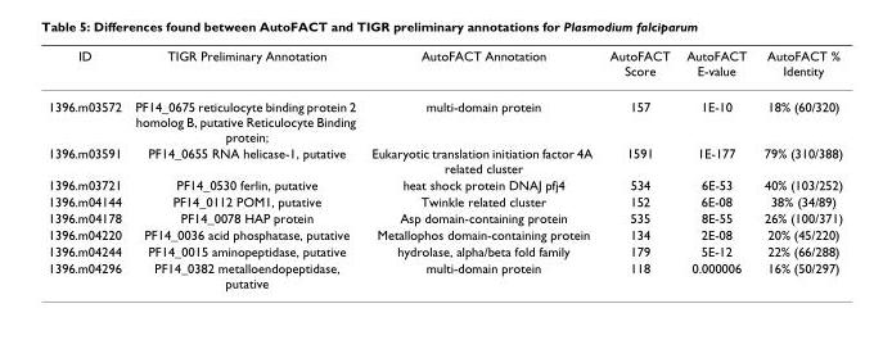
<table><thead><tr><td>ID</td><td>TIGR Preliminary Annotation</td><td>AutoFACT Annotation</td><td>AutoFACT Score</td><td>AutoFACT E-value</td><td>AutoFACT % Identity</td></tr></thead><tbody><tr><td>1396.m03572</td><td>PF14_0675 reticulocyte binding protein 2 homolog B, putative Reticulocyte Binding protein;</td><td>multi-domain protein</td><td>157</td><td>1E-10</td><td>18% (60/320)</td></tr><tr><td>1396.m03591</td><td>PF14_0655 RNA helicase-1, putative</td><td>Eukaryotic translation initiation factor 4A related cluster</td><td>1591</td><td>1E-177</td><td>79% (310/388)</td></tr><tr><td>1396.m03721</td><td>PF14_0530 ferlin, putative</td><td>heat shock protein DNAJ pfj4</td><td>534</td><td>6E-53</td><td>40% (103/252)</td></tr><tr><td>1396.m04144</td><td>PF14_0112 POM1, putative</td><td>Twinkle related cluster</td><td>152</td><td>6E-08</td><td>38% (34/89)</td></tr><tr><td>1396.m04178</td><td>PF14_0078 HAP protein</td><td>Asp domain-containing protein</td><td>535</td><td>8E-55</td><td>26% (100/371)</td></tr><tr><td>1396.m04220</td><td>PF14_0036 acid phosphatase, putative</td><td>Metallophos domain-containing protein</td><td>134</td><td>2E-08</td><td>20% (45/220)</td></tr><tr><td>1396.m04244</td><td>PF14_0015 aminopeptidase, putative</td><td>hydrolase, alpha/beta fold family</td><td>179</td><td>5E-12</td><td>22% (66/288)</td></tr><tr><td>1396.m04296</td><td>PF14_0382 metalloendopeptidase, putative</td><td>multi-domain protein</td><td>118</td><td>0.000006</td><td>16% (50/297)</td></tr></tbody></table>